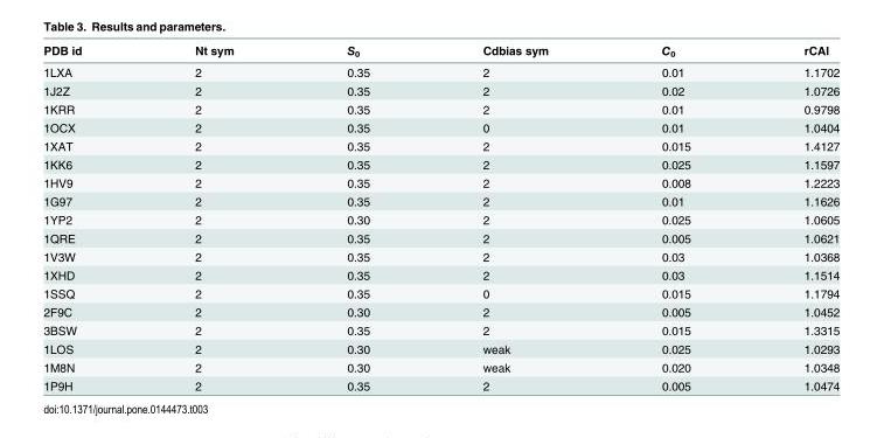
<table><thead><tr><td>PDB id</td><td>Nt sym</td><td>S<sub>0</sub></td><td>Cdbias sym</td><td>C<sub>0</sub></td><td>rCAI</td></tr></thead><tbody><tr><td>1LXA</td><td>2</td><td>0.35</td><td>2</td><td>0.01</td><td>1.1702</td></tr><tr><td>1J2Z</td><td>2</td><td>0.35</td><td>2</td><td>0.02</td><td>1.0726</td></tr><tr><td>1KRR</td><td>2</td><td>0.35</td><td>2</td><td>0.01</td><td>0.9798</td></tr><tr><td>1OCX</td><td>2</td><td>0.35</td><td>0</td><td>0.01</td><td>1.0404</td></tr><tr><td>1XAT</td><td>2</td><td>0.35</td><td>2</td><td>0.015</td><td>1.4127</td></tr><tr><td>1KK6</td><td>2</td><td>0.35</td><td>2</td><td>0.025</td><td>1.1597</td></tr><tr><td>1HV9</td><td>2</td><td>0.35</td><td>2</td><td>0.008</td><td>1.2223</td></tr><tr><td>1G97</td><td>2</td><td>0.35</td><td>2</td><td>0.01</td><td>1.1626</td></tr><tr><td>1YP2</td><td>2</td><td>0.30</td><td>2</td><td>0.025</td><td>1.0605</td></tr><tr><td>1QRE</td><td>2</td><td>0.35</td><td>2</td><td>0.005</td><td>1.0621</td></tr><tr><td>1V3W</td><td>2</td><td>0.35</td><td>2</td><td>0.03</td><td>1.0368</td></tr><tr><td>1XHD</td><td>2</td><td>0.35</td><td>2</td><td>0.03</td><td>1.1514</td></tr><tr><td>1SSQ</td><td>2</td><td>0.35</td><td>0</td><td>0.015</td><td>1.1794</td></tr><tr><td>2F9C</td><td>2</td><td>0.30</td><td>2</td><td>0.005</td><td>1.0452</td></tr><tr><td>3BSW</td><td>2</td><td>0.35</td><td>2</td><td>0.015</td><td>1.3315</td></tr><tr><td>1LOS</td><td>2</td><td>0.30</td><td>weak</td><td>0.025</td><td>1.0293</td></tr><tr><td>1M8N</td><td>2</td><td>0.30</td><td>weak</td><td>0.020</td><td>1.0348</td></tr><tr><td>1P9H</td><td>2</td><td>0.35</td><td>2</td><td>0.005</td><td>1.0474</td></tr></tbody></table>